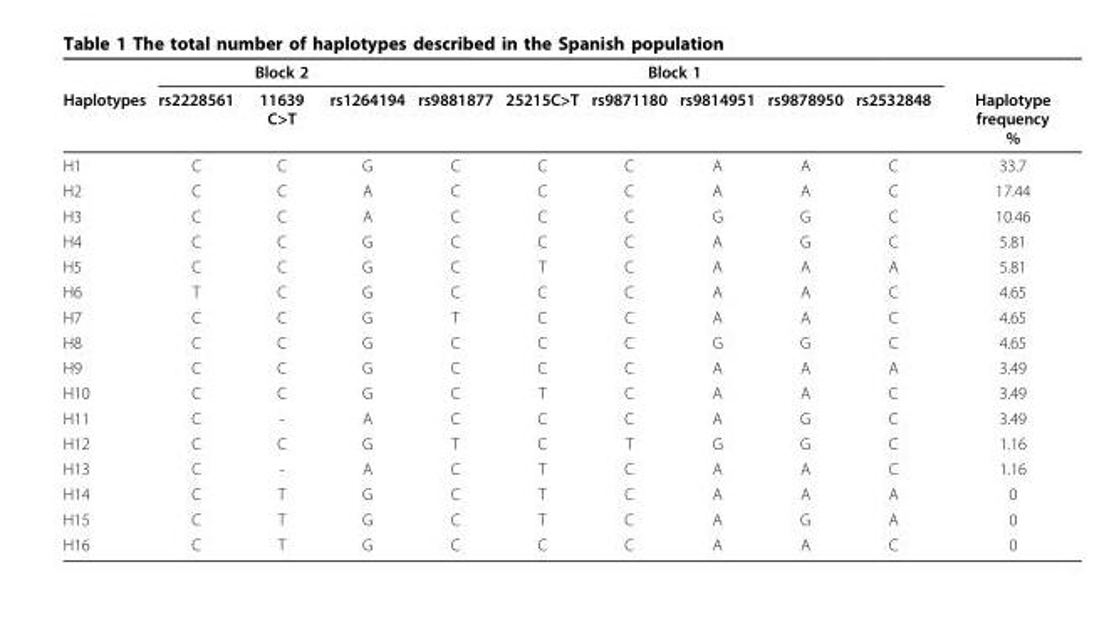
<table><thead><tr><td rowspan="2">Haplotypes</td><td colspan="3">Block 2</td><td colspan="6">Block 1</td><td rowspan="2">Haplotype frequency %</td></tr><tr><td>rs2228561</td><td>11639 C&gt;T</td><td>rs1264194</td><td>rs9881877</td><td>25215C&gt;T</td><td>rs9871180</td><td>rs9814951</td><td>rs9878950</td><td>rs2532848</td></tr></thead><tbody><tr><td>H1</td><td>C</td><td>C</td><td>G</td><td>C</td><td>C</td><td>C</td><td>A</td><td>A</td><td>C</td><td>33.7</td></tr><tr><td>H2</td><td>C</td><td>C</td><td>A</td><td>C</td><td>C</td><td>C</td><td>A</td><td>A</td><td>C</td><td>17.44</td></tr><tr><td>H3</td><td>C</td><td>C</td><td>A</td><td>C</td><td>C</td><td>C</td><td>G</td><td>G</td><td>C</td><td>10.46</td></tr><tr><td>H4</td><td>C</td><td>C</td><td>G</td><td>C</td><td>C</td><td>C</td><td>A</td><td>G</td><td>C</td><td>5.81</td></tr><tr><td>H5</td><td>C</td><td>C</td><td>G</td><td>C</td><td>T</td><td>C</td><td>A</td><td>A</td><td>A</td><td>5.81</td></tr><tr><td>H6</td><td>T</td><td>C</td><td>G</td><td>C</td><td>C</td><td>C</td><td>A</td><td>A</td><td>C</td><td>4.65</td></tr><tr><td>H7</td><td>C</td><td>C</td><td>G</td><td>T</td><td>C</td><td>C</td><td>A</td><td>A</td><td>C</td><td>4.65</td></tr><tr><td>H8</td><td>C</td><td>C</td><td>G</td><td>C</td><td>C</td><td>C</td><td>G</td><td>G</td><td>C</td><td>4.65</td></tr><tr><td>H9</td><td>C</td><td>C</td><td>G</td><td>C</td><td>C</td><td>C</td><td>A</td><td>A</td><td>A</td><td>3.49</td></tr><tr><td>H10</td><td>C</td><td>C</td><td>G</td><td>C</td><td>T</td><td>C</td><td>A</td><td>A</td><td>C</td><td>3.49</td></tr><tr><td>H11</td><td>C</td><td>-</td><td>A</td><td>C</td><td>C</td><td>C</td><td>A</td><td>G</td><td>C</td><td>3.49</td></tr><tr><td>H12</td><td>C</td><td>C</td><td>G</td><td>T</td><td>C</td><td>T</td><td>G</td><td>G</td><td>C</td><td>1.16</td></tr><tr><td>H13</td><td>C</td><td>-</td><td>A</td><td>C</td><td>T</td><td>C</td><td>A</td><td>A</td><td>C</td><td>1.16</td></tr><tr><td>H14</td><td>C</td><td>T</td><td>G</td><td>C</td><td>T</td><td>C</td><td>A</td><td>A</td><td>A</td><td>0</td></tr><tr><td>H15</td><td>C</td><td>T</td><td>G</td><td>C</td><td>T</td><td>C</td><td>A</td><td>G</td><td>A</td><td>0</td></tr><tr><td>H16</td><td>C</td><td>T</td><td>G</td><td>C</td><td>C</td><td>C</td><td>A</td><td>A</td><td>C</td><td>0</td></tr></tbody></table>